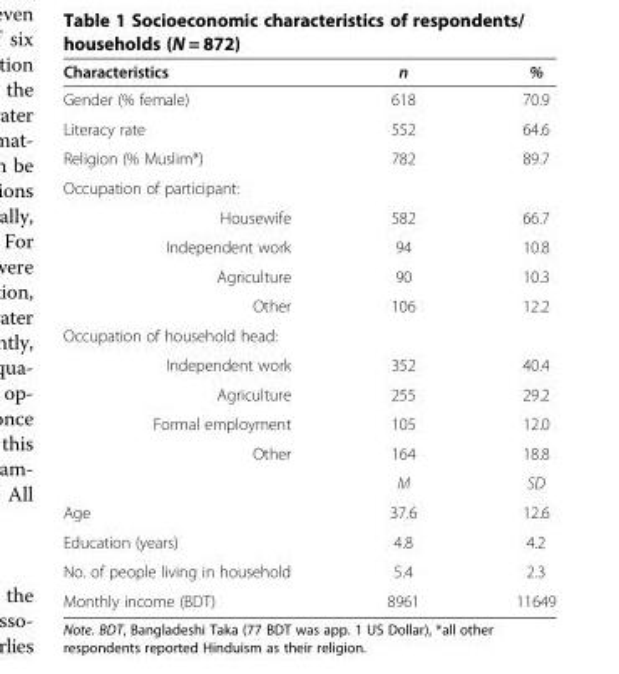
<table><thead><tr><td>Characteristics</td><td>n</td><td>%</td></tr></thead><tbody><tr><td>Gender (% female)</td><td>618</td><td>70.9</td></tr><tr><td>Literacy rate</td><td>552</td><td>64.6</td></tr><tr><td>Religion (% Muslim*)</td><td>782</td><td>89.7</td></tr><tr><td colspan="3">Occupation of participant:</td></tr><tr><td>Housewife</td><td>582</td><td>66.7</td></tr><tr><td>Independent work</td><td>94</td><td>10.8</td></tr><tr><td>Agriculture</td><td>90</td><td>10.3</td></tr><tr><td>Other</td><td>106</td><td>12.2</td></tr><tr><td colspan="3">Occupation of household head:</td></tr><tr><td>Independent work</td><td>352</td><td>40.4</td></tr><tr><td>Agriculture</td><td>255</td><td>29.2</td></tr><tr><td>Formal employment</td><td>105</td><td>12.0</td></tr><tr><td rowspan="2">Other</td><td>164</td><td>18.8</td></tr><tr><td>M</td><td>SD</td></tr><tr><td>Age</td><td>37.6</td><td>12.6</td></tr><tr><td>Education (years)</td><td>4.8</td><td>4.2</td></tr><tr><td>No. of people living in household</td><td>5.4</td><td>2.3</td></tr><tr><td>Monthly income (BDT)</td><td>8961</td><td>11649</td></tr></tbody></table>